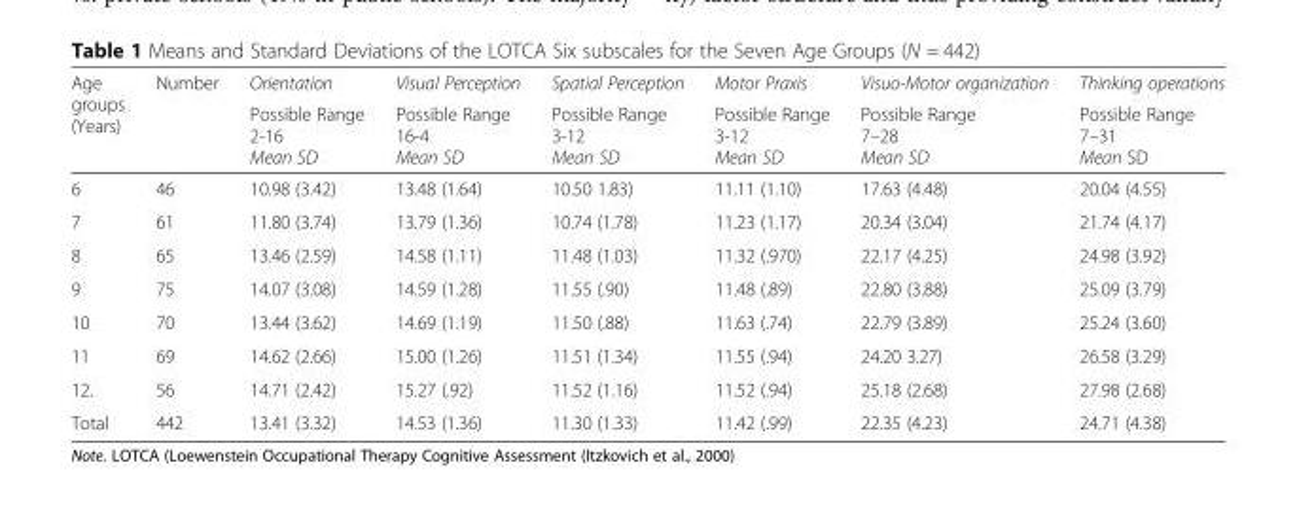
<table><thead><tr><td rowspan="2">Age groups (Years)</td><td rowspan="2">Number</td><td rowspan="2">Orientation Possible Range 2-16 Mean SD</td><td rowspan="2">Visual Perception Possible Range 16-4 Mean SD</td><td rowspan="2">Spatial Perception Possible Range 3-12 Mean SD</td><td rowspan="2">Motor Praxis Possible Range 3-12 Mean SD</td><td rowspan="2">Visuo-Motor organization Possible Range 7–28 Mean SD</td><td rowspan="2">Thinking operations Possible Range 7–31 Mean SD</td></tr><tr></tr></thead><tbody><tr><td>6</td><td>46</td><td>10.98 (3.42)</td><td>13.48 (1.64)</td><td>10.50 1.83)</td><td>11.11 (1.10)</td><td>17.63 (4.48)</td><td>20.04 (4.55)</td></tr><tr><td>7</td><td>61</td><td>11.80 (3.74)</td><td>13.79 (1.36)</td><td>10.74 (1.78)</td><td>11.23 (1.17)</td><td>20.34 (3.04)</td><td>21.74 (4.17)</td></tr><tr><td>8</td><td>65</td><td>13.46 (2.59)</td><td>14.58 (1.11)</td><td>11.48 (1.03)</td><td>11.32 (.970)</td><td>22.17 (4.25)</td><td>24.98 (3.92)</td></tr><tr><td>9</td><td>75</td><td>14.07 (3.08)</td><td>14.59 (1.28)</td><td>11.55 (.90)</td><td>11.48 (.89)</td><td>22.80 (3.88)</td><td>25.09 (3.79)</td></tr><tr><td>10</td><td>70</td><td>13.44 (3.62)</td><td>14.69 (1.19)</td><td>11.50 (.88)</td><td>11.63 (.74)</td><td>22.79 (3.89)</td><td>25.24 (3.60)</td></tr><tr><td>11</td><td>69</td><td>14.62 (2.66)</td><td>15.00 (1.26)</td><td>11.51 (1.34)</td><td>11.55 (.94)</td><td>24.20 3.27)</td><td>26.58 (3.29)</td></tr><tr><td>12.</td><td>56</td><td>14.71 (2.42)</td><td>15.27 (.92)</td><td>11.52 (1.16)</td><td>11.52 (.94)</td><td>25.18 (2.68)</td><td>27.98 (2.68)</td></tr><tr><td>Total</td><td>442</td><td>13.41 (3.32)</td><td>14.53 (1.36)</td><td>11.30 (1.33)</td><td>11.42 (.99)</td><td>22.35 (4.23)</td><td>24.71 (4.38)</td></tr></tbody></table>